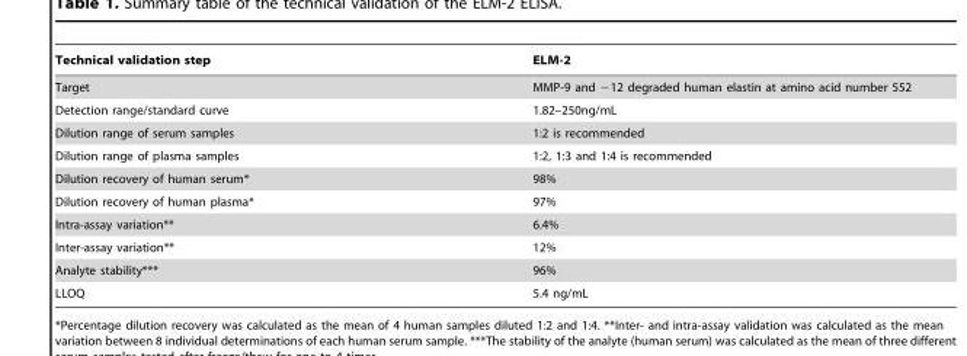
<table><thead><tr><td>Technical validation step</td><td>ELM-2</td></tr></thead><tbody><tr><td>Target</td><td>MMP-9 and −12 degraded human elastin at amino acid number 552</td></tr><tr><td>Detection range/standard curve</td><td>1.82–250ng/mL</td></tr><tr><td>Dilution range of serum samples</td><td>1:2 is recommended</td></tr><tr><td>Dilution range of plasma samples</td><td>1:2, 1:3 and 1:4 is recommended</td></tr><tr><td>Dilution recovery of human serum*</td><td>98%</td></tr><tr><td>Dilution recovery of human plasma*</td><td>97%</td></tr><tr><td>Intra-assay variation**</td><td>6.4%</td></tr><tr><td>Inter-assay variation**</td><td>12%</td></tr><tr><td>Analyte stability***</td><td>96%</td></tr><tr><td>LLOQ</td><td>5.4 ng/mL</td></tr></tbody></table>